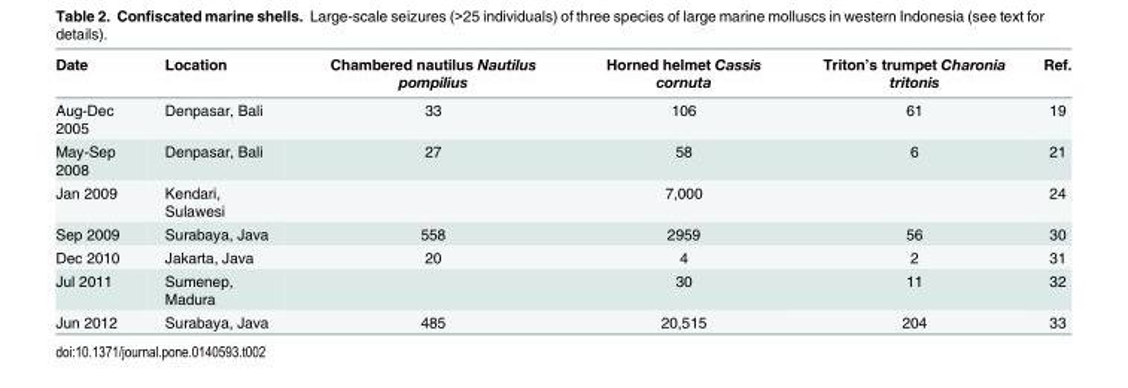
<table><thead><tr><td>Date</td><td>Location</td><td>Chambered nautilus Nautilus pompilius</td><td>Horned helmet Cassis cornuta</td><td>Triton’s trumpet Charonia tritonis</td><td>Ref.</td></tr></thead><tbody><tr><td>Aug-Dec 2005</td><td>Denpasar, Bali</td><td>33</td><td>106</td><td>61</td><td>19</td></tr><tr><td>May-Sep 2008</td><td>Denpasar, Bali</td><td>27</td><td>58</td><td>6</td><td>21</td></tr><tr><td>Jan 2009</td><td>Kendari, Sulawesi</td><td></td><td>7,000</td><td></td><td>24</td></tr><tr><td>Sep 2009</td><td>Surabaya, Java</td><td>558</td><td>2959</td><td>56</td><td>30</td></tr><tr><td>Dec 2010</td><td>Jakarta, Java</td><td>20</td><td>4</td><td>2</td><td>31</td></tr><tr><td>Jul 2011</td><td>Sumenep, Madura</td><td></td><td>30</td><td>11</td><td>32</td></tr><tr><td>Jun 2012</td><td>Surabaya, Java</td><td>485</td><td>20,515</td><td>204</td><td>33</td></tr></tbody></table>